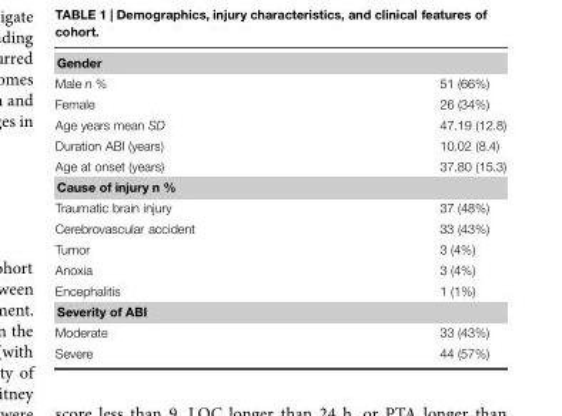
<table><tbody><tr><td colspan="2">Gender</td></tr><tr><td>Male n %</td><td>51 (66%)</td></tr><tr><td>Female</td><td>26 (34%)</td></tr><tr><td>Age years mean SD</td><td>47.19 (12.8)</td></tr><tr><td>Duration ABI (years)</td><td>10.02 (8.4)</td></tr><tr><td>Age at onset (years)</td><td>37.80 (15.3)</td></tr><tr><td colspan="2">Cause of injury n %</td></tr><tr><td>Traumatic brain injury</td><td>37 (48%)</td></tr><tr><td>Cerebrovascular accident</td><td>33 (43%)</td></tr><tr><td>Tumor</td><td>3 (4%)</td></tr><tr><td>Anoxia</td><td>3 (4%)</td></tr><tr><td>Encephalitis</td><td>1 (1%)</td></tr><tr><td colspan="2">Severity of ABI</td></tr><tr><td>Moderate</td><td>33 (43%)</td></tr><tr><td>Severe</td><td>44 (57%)</td></tr></tbody></table>